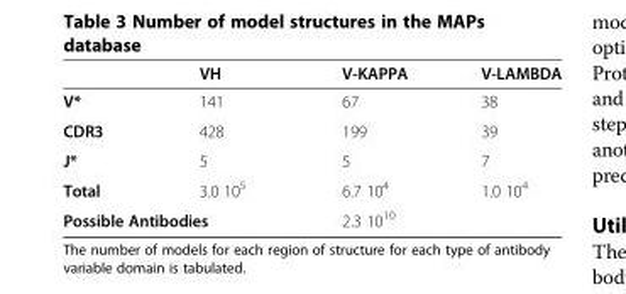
<table><thead><tr><td></td><td>VH</td><td>V-KAPPA</td><td>V-LAMBDA</td></tr></thead><tbody><tr><td>V*</td><td>141</td><td>67</td><td>38</td></tr><tr><td>CDR3</td><td>428</td><td>199</td><td>39</td></tr><tr><td>J*</td><td>5</td><td>5</td><td>7</td></tr><tr><td>Total</td><td>3.0 10<sup>5</sup></td><td>6.7 10<sup>4</sup></td><td>1.0 10<sup>4</sup></td></tr><tr><td colspan="2">Possible Antibodies</td><td colspan="2">2.3 10<sup>10</sup></td></tr></tbody></table>